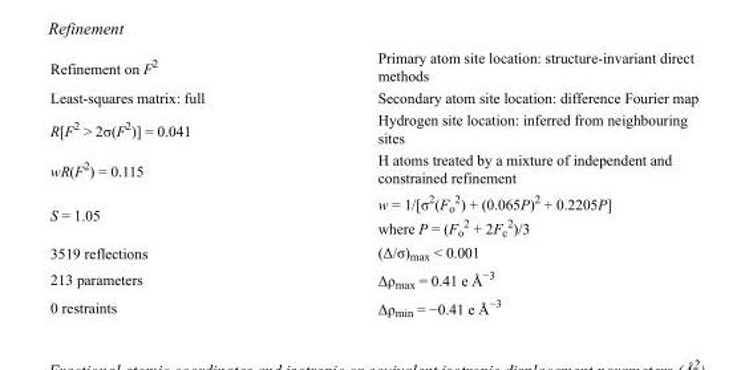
<table><tbody><tr><td>Refinement on F<sup>2</sup></td><td>Primary atom site location: structure-invariant direct methods</td></tr><tr><td>Least-squares matrix: full</td><td>Secondary atom site location: difference Fourier map</td></tr><tr><td>R[F<sup>2</sup> &gt; 2σ(F<sup>2</sup>)] = 0.041</td><td>Hydrogen site location: inferred from neighbouring sites</td></tr><tr><td>wR(F<sup>2</sup>) = 0.115</td><td>H atoms treated by a mixture of independent and constrained refinement</td></tr><tr><td>S = 1.05</td><td>w = 1/[σ<sup>2</sup>(F<sub>o</sub> <sup>2</sup>) + (0.065P)<sup>2</sup> + 0.2205P] where P = (F<sub>o</sub> <sup>2</sup> + 2F<sub>c</sub> <sup>2</sup>)/3</td></tr><tr><td>3519 reflections</td><td>(Δ/σ)<sub>max</sub> &lt; 0.001</td></tr><tr><td>213 parameters</td><td>Δρ<sub>max</sub> = 0.41 e Å<sup>−3</sup></td></tr><tr><td>0 restraints</td><td>Δρmin = −0.41 e Å−3</td></tr></tbody></table>